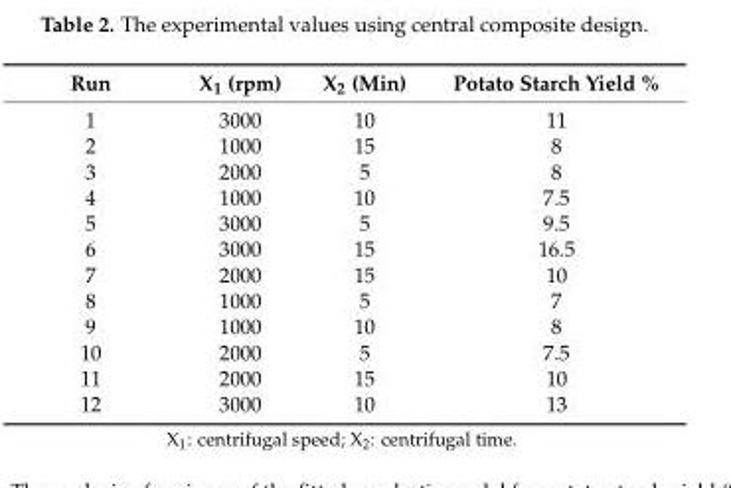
<table><thead><tr><td>Run</td><td>X<sub>1</sub> (rpm)</td><td>X<sub>2</sub> (Min)</td><td>Potato Starch Yield %</td></tr></thead><tbody><tr><td>1</td><td>3000</td><td>10</td><td>11</td></tr><tr><td>2</td><td>1000</td><td>15</td><td>8</td></tr><tr><td>3</td><td>2000</td><td>5</td><td>8</td></tr><tr><td>4</td><td>1000</td><td>10</td><td>7.5</td></tr><tr><td>5</td><td>3000</td><td>5</td><td>9.5</td></tr><tr><td>6</td><td>3000</td><td>15</td><td>16.5</td></tr><tr><td>7</td><td>2000</td><td>15</td><td>10</td></tr><tr><td>8</td><td>1000</td><td>5</td><td>7</td></tr><tr><td>9</td><td>1000</td><td>10</td><td>8</td></tr><tr><td>10</td><td>2000</td><td>5</td><td>7.5</td></tr><tr><td>11</td><td>2000</td><td>15</td><td>10</td></tr><tr><td>12</td><td>3000</td><td>10</td><td>13</td></tr></tbody></table>